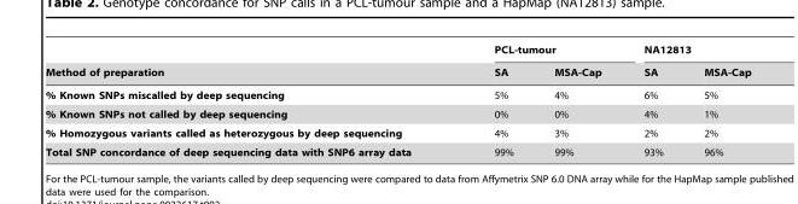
<table><thead><tr><td rowspan="2">Method of preparation</td><td colspan="2">PCL-tumour</td><td colspan="2">NA12813</td></tr><tr><td>SA</td><td>MSA-Cap</td><td>SA</td><td>MSA-Cap</td></tr></thead><tbody><tr><td>% Known SNPs miscalled by deep sequencing</td><td>5%</td><td>4%</td><td>6%</td><td>5%</td></tr><tr><td>% Known SNPs not called by deep sequencing</td><td>0%</td><td>0%</td><td>4%</td><td>1%</td></tr><tr><td>% Homozygous variants called as heterozygous by deep sequencing</td><td>4%</td><td>3%</td><td>2%</td><td>2%</td></tr><tr><td>Total SNP concordance of deep sequencing data with SNP6 array data</td><td>99%</td><td>99%</td><td>93%</td><td>96%</td></tr></tbody></table>